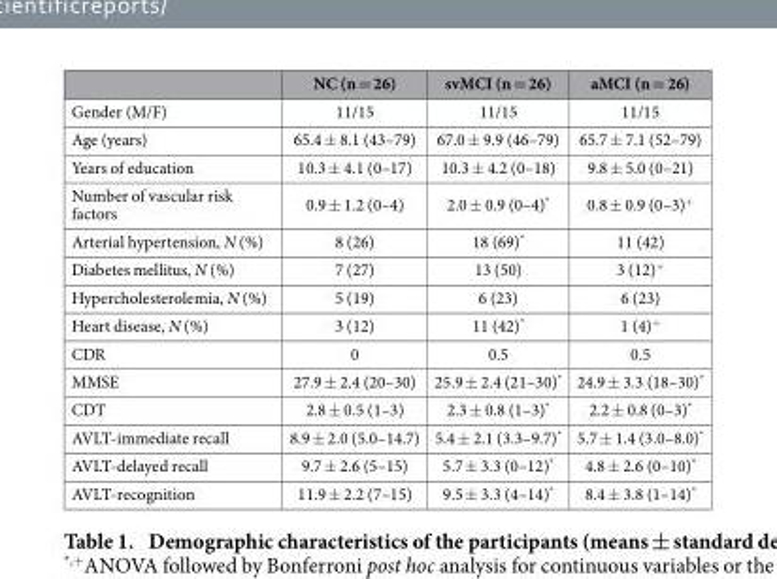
<table><thead><tr><td></td><td>NC (n = 26)</td><td>svMCI (n = 26)</td><td>aMCI (n = 26)</td></tr></thead><tbody><tr><td>Gender (M/F)</td><td>11/15</td><td>11/15</td><td>11/15</td></tr><tr><td>Age (years)</td><td>65.4 ± 8.1 (43–79)</td><td>67.0 ± 9.9 (46–79)</td><td>65.7 ± 7.1 (52–79)</td></tr><tr><td>Years of education</td><td>10.3 ± 4.1 (0–17)</td><td>10.3 ± 4.2 (0–18)</td><td>9.8 ± 5.0 (0–21)</td></tr><tr><td>Number of vascular risk factors</td><td>0.9 ± 1.2 (0–4)</td><td>2.0 ± 0.9 (0–4)*</td><td>0.8 ± 0.9 (0–3)<sup>+</sup></td></tr><tr><td>Arterial hypertension, N (%)</td><td>8 (26)</td><td>18 (69)*</td><td>11 (42)</td></tr><tr><td>Diabetes mellitus, N (%)</td><td>7 (27)</td><td>13 (50)</td><td>3 (12)<sup>+</sup></td></tr><tr><td>Hypercholesterolemia, N (%)</td><td>5 (19)</td><td>6 (23)</td><td>6 (23)</td></tr><tr><td>Heart disease, N (%)</td><td>3 (12)</td><td>11 (42)*</td><td>1 (4)<sup>+</sup></td></tr><tr><td>CDR</td><td>0</td><td>0.5</td><td>0.5</td></tr><tr><td>MMSE</td><td>27.9 ± 2.4 (20–30)</td><td>25.9 ± 2.4 (21–30)*</td><td>24.9 ± 3.3 (18–30)*</td></tr><tr><td>CDT</td><td>2.8 ± 0.5 (1–3)</td><td>2.3 ± 0.8 (1–3)*</td><td>2.2 ± 0.8 (0–3)*</td></tr><tr><td>AVLT-immediate recall</td><td>8.9 ± 2.0 (5.0–14.7)</td><td>5.4 ± 2.1 (3.3–9.7)*</td><td>5.7 ± 1.4 (3.0–8.0)*</td></tr><tr><td>AVLT-delayed recall</td><td>9.7 ± 2.6 (5–15)</td><td>5.7 ± 3.3 (0–12)*</td><td>4.8 ± 2.6 (0–10)*</td></tr><tr><td>AVLT-recognition</td><td>11.9 ± 2.2 (7–15)</td><td>9.5 ± 3.3 (4–14)*</td><td>8.4 ± 3.8 (1–14)*</td></tr></tbody></table>